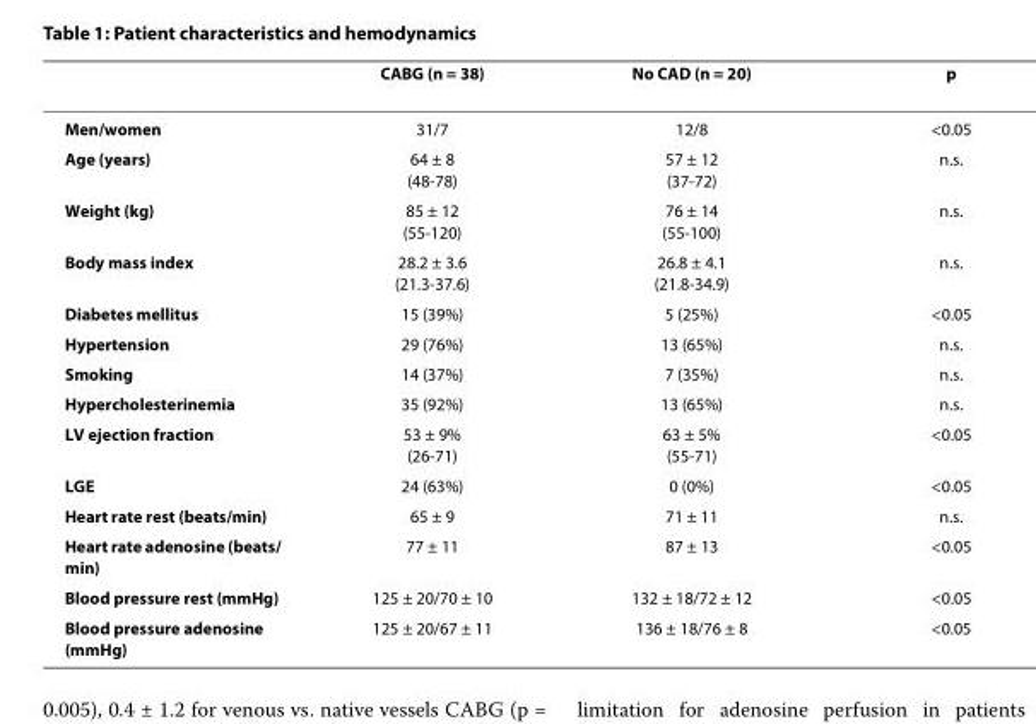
<table><thead><tr><td></td><td>CABG (n = 38)</td><td>No CAD (n = 20)</td><td>p</td></tr></thead><tbody><tr><td>Men/women</td><td>31/7</td><td>12/8</td><td>&lt;0.05</td></tr><tr><td>Age (years)</td><td>64 ± 8 (48-78)</td><td>57 ± 12 (37-72)</td><td>n.s.</td></tr><tr><td>Weight (kg)</td><td>85 ± 12 (55-120)</td><td>76 ± 14 (55-100)</td><td>n.s.</td></tr><tr><td>Body mass index</td><td>28.2 ± 3.6 (21.3-37.6)</td><td>26.8 ± 4.1 (21.8-34.9)</td><td>n.s.</td></tr><tr><td>Diabetes mellitus</td><td>15 (39%)</td><td>5 (25%)</td><td>&lt;0.05</td></tr><tr><td>Hypertension</td><td>29 (76%)</td><td>13 (65%)</td><td>n.s.</td></tr><tr><td>Smoking</td><td>14 (37%)</td><td>7 (35%)</td><td>n.s.</td></tr><tr><td>Hypercholesterinemia</td><td>35 (92%)</td><td>13 (65%)</td><td>n.s.</td></tr><tr><td>LV ejection fraction</td><td>53 ± 9% (26-71)</td><td>63 ± 5% (55-71)</td><td>&lt;0.05</td></tr><tr><td>LGE</td><td>24 (63%)</td><td>0 (0%)</td><td>&lt;0.05</td></tr><tr><td>Heart rate rest (beats/min)</td><td>65 ± 9</td><td>71 ± 11</td><td>n.s.</td></tr><tr><td>Heart rate adenosine (beats/ min)</td><td>77 ± 11</td><td>87 ± 13</td><td>&lt;0.05</td></tr><tr><td>Blood pressure rest (mmHg)</td><td>125 ± 20/70 ± 10</td><td>132 ± 18/72 ± 12</td><td>&lt;0.05</td></tr><tr><td>Blood pressure adenosine (mmHg)</td><td>125 ± 20/67 ± 11</td><td>136 ± 18/76 ± 8</td><td>&lt;0.05</td></tr></tbody></table>